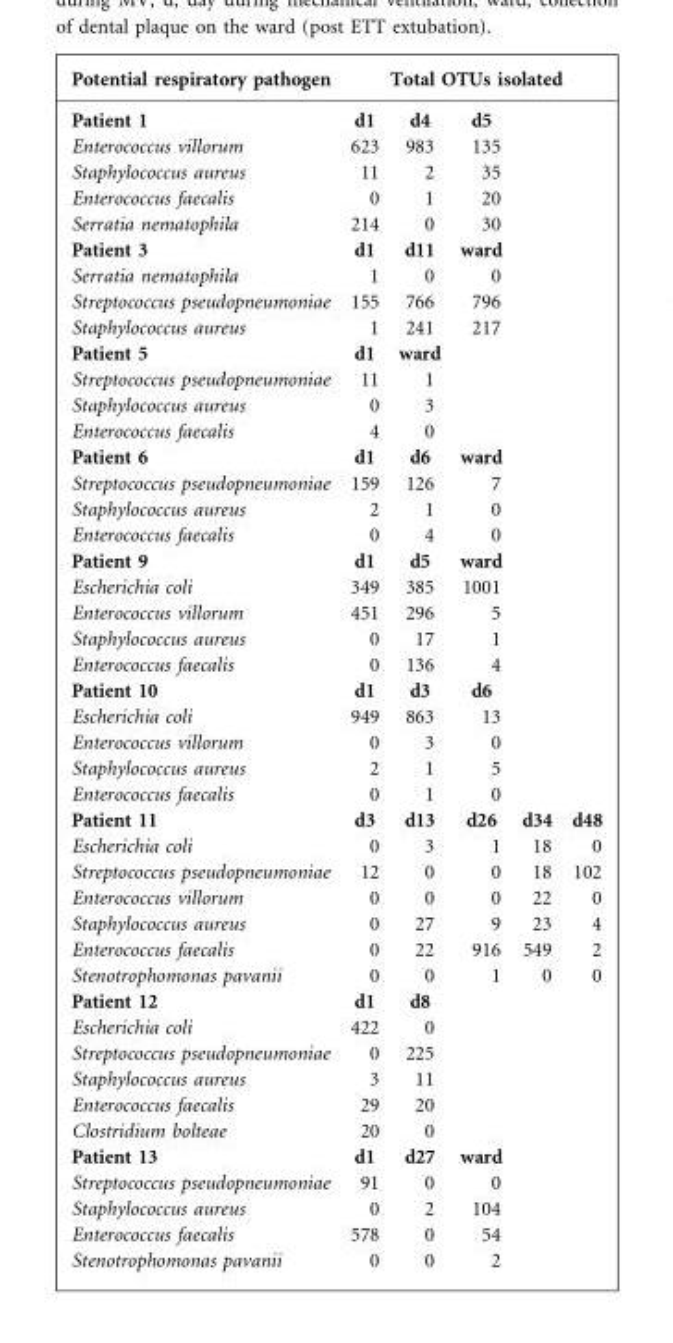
<table><thead><tr><td rowspan="2">Potential respiratory pathogen Patient 1</td><td colspan="5">Total OTUs isolated</td></tr><tr><td>d1</td><td>d4</td><td>d5</td><td></td><td></td></tr></thead><tbody><tr><td>Enterococcus villorum</td><td>623</td><td>983</td><td>135</td><td></td><td></td></tr><tr><td>Staphylococcus aureus</td><td>11</td><td>2</td><td>35</td><td></td><td></td></tr><tr><td>Enterococcus faecalis</td><td>0</td><td>1</td><td>20</td><td></td><td></td></tr><tr><td>Serratia nematophila</td><td>214</td><td>0</td><td>30</td><td></td><td></td></tr><tr><td>Patient 3</td><td>d1</td><td>d11</td><td>ward</td><td></td><td></td></tr><tr><td>Serratia nematophila</td><td>1</td><td>0</td><td>0</td><td></td><td></td></tr><tr><td>Streptococcus pseudopneumoniae</td><td>155</td><td>766</td><td>796</td><td></td><td></td></tr><tr><td>Staphylococcus aureus</td><td>1</td><td>241</td><td>217</td><td></td><td></td></tr><tr><td>Patient 5</td><td>d1</td><td>ward</td><td></td><td></td><td></td></tr><tr><td>Streptococcus pseudopneumoniae</td><td>11</td><td>1</td><td></td><td></td><td></td></tr><tr><td>Staphylococcus aureus</td><td>0</td><td>3</td><td></td><td></td><td></td></tr><tr><td>Enterococcus faecalis</td><td>4</td><td>0</td><td></td><td></td><td></td></tr><tr><td>Patient 6</td><td>d1</td><td>d6</td><td>ward</td><td></td><td></td></tr><tr><td>Streptococcus pseudopneumoniae</td><td>159</td><td>126</td><td>7</td><td></td><td></td></tr><tr><td>Staphylococcus aureus</td><td>2</td><td>1</td><td>0</td><td></td><td></td></tr><tr><td>Enterococcus faecalis</td><td>0</td><td>4</td><td>0</td><td></td><td></td></tr><tr><td>Patient 9</td><td>d1</td><td>d5</td><td>ward</td><td></td><td></td></tr><tr><td>Escherichia coli</td><td>349</td><td>385</td><td>1001</td><td></td><td></td></tr><tr><td>Enterococcus villorum</td><td>451</td><td>296</td><td>5</td><td></td><td></td></tr><tr><td>Staphylococcus aureus</td><td>0</td><td>17</td><td>1</td><td></td><td></td></tr><tr><td>Enterococcus faecalis</td><td>0</td><td>136</td><td>4</td><td></td><td></td></tr><tr><td>Patient 10</td><td>d1</td><td>d3</td><td>d6</td><td></td><td></td></tr><tr><td>Escherichia coli</td><td>949</td><td>863</td><td>13</td><td></td><td></td></tr><tr><td>Enterococcus villorum</td><td>0</td><td>3</td><td>0</td><td></td><td></td></tr><tr><td>Staphylococcus aureus</td><td>2</td><td>1</td><td>5</td><td></td><td></td></tr><tr><td>Enterococcus faecalis</td><td>0</td><td>1</td><td>0</td><td></td><td></td></tr><tr><td>Patient 11</td><td>d3</td><td>d13</td><td>d26</td><td>d34</td><td>d48</td></tr><tr><td>Escherichia coli</td><td>0</td><td>3</td><td>1</td><td>18</td><td>0</td></tr><tr><td>Streptococcus pseudopneumoniae</td><td>12</td><td>0</td><td>0</td><td>18</td><td>102</td></tr><tr><td>Enterococcus villorum</td><td>0</td><td>0</td><td>0</td><td>22</td><td>0</td></tr><tr><td>Staphylococcus aureus</td><td>0</td><td>27</td><td>9</td><td>23</td><td>4</td></tr><tr><td>Enterococcus faecalis</td><td>0</td><td>22</td><td>916</td><td>549</td><td>2</td></tr><tr><td>Stenotrophomonas pavanii</td><td>0</td><td>0</td><td>1</td><td>0</td><td>0</td></tr><tr><td>Patient 12</td><td>d1</td><td>d8</td><td></td><td></td><td></td></tr><tr><td>Escherichia coli</td><td>422</td><td>0</td><td></td><td></td><td></td></tr><tr><td>Streptococcus pseudopneumoniae</td><td>0</td><td>225</td><td></td><td></td><td></td></tr><tr><td>Staphylococcus aureus</td><td>3</td><td>11</td><td></td><td></td><td></td></tr><tr><td>Enterococcus faecalis</td><td>29</td><td>20</td><td></td><td></td><td></td></tr><tr><td>Clostridium bolteae</td><td>20</td><td>0</td><td></td><td></td><td></td></tr><tr><td>Patient 13</td><td>d1</td><td>d27</td><td>ward</td><td></td><td></td></tr><tr><td>Streptococcus pseudopneumoniae</td><td>91</td><td>0</td><td>0</td><td></td><td></td></tr><tr><td>Staphylococcus aureus</td><td>0</td><td>2</td><td>104</td><td></td><td></td></tr><tr><td>Enterococcus faecalis</td><td>578</td><td>0</td><td>54</td><td></td><td></td></tr><tr><td>Stenotrophomonas pavanii</td><td>0</td><td>0</td><td>2</td><td></td><td></td></tr></tbody></table>